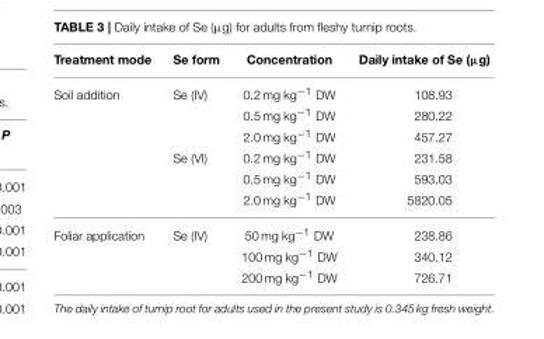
<table><thead><tr><td>Treatment mode</td><td>Se form</td><td>Concentration</td><td>Daily intake of Se (µg)</td></tr></thead><tbody><tr><td rowspan="6">Soil addition</td><td>Se (IV)</td><td>0.2 mg kg<sup>−1</sup> DW</td><td>108.93</td></tr><tr><td></td><td>0.5 mg kg<sup>−1</sup> DW</td><td>280.22</td></tr><tr><td></td><td>2.0 mg kg<sup>−1</sup> DW</td><td>457.27</td></tr><tr><td>Se (VI)</td><td>0.2 mg kg<sup>−1</sup> DW</td><td>231.58</td></tr><tr><td></td><td>0.5 mg kg<sup>−1</sup> DW</td><td>593.03</td></tr><tr><td></td><td>2.0 mg kg<sup>−1</sup> DW</td><td>5820.05</td></tr><tr><td rowspan="3">Foliar application</td><td>Se (IV)</td><td>50 mg kg<sup>−1</sup> DW</td><td>238.86</td></tr><tr><td></td><td>100 mg kg<sup>−1</sup> DW</td><td>340.12</td></tr><tr><td></td><td>200 mg kg<sup>−1</sup> DW</td><td>726.71</td></tr></tbody></table>